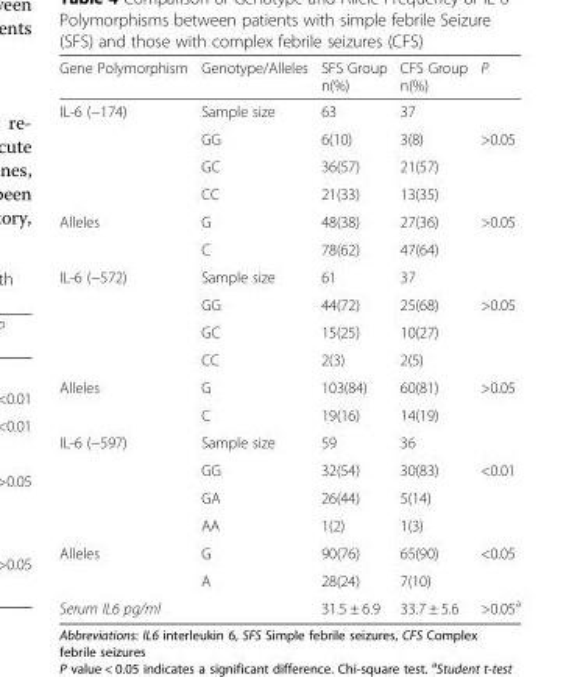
<table><thead><tr><td>Gene Polymorphism</td><td>Genotype/Alleles</td><td>SFS Group n(%)</td><td>CFS Group n(%)</td><td>P</td></tr></thead><tbody><tr><td rowspan="4">IL-6 (−174)</td><td>Sample size</td><td>63</td><td>37</td><td></td></tr><tr><td>GG</td><td>6(10)</td><td>3(8)</td><td>&gt;0.05</td></tr><tr><td>GC</td><td>36(57)</td><td>21(57)</td><td></td></tr><tr><td>CC</td><td>21(33)</td><td>13(35)</td><td></td></tr><tr><td rowspan="2">Alleles</td><td>G</td><td>48(38)</td><td>27(36)</td><td>&gt;0.05</td></tr><tr><td>C</td><td>78(62)</td><td>47(64)</td><td></td></tr><tr><td rowspan="4">IL-6 (−572)</td><td>Sample size</td><td>61</td><td>37</td><td></td></tr><tr><td>GG</td><td>44(72)</td><td>25(68)</td><td>&gt;0.05</td></tr><tr><td>GC</td><td>15(25)</td><td>10(27)</td><td></td></tr><tr><td>CC</td><td>2(3)</td><td>2(5)</td><td></td></tr><tr><td rowspan="2">Alleles</td><td>G</td><td>103(84)</td><td>60(81)</td><td>&gt;0.05</td></tr><tr><td>C</td><td>19(16)</td><td>14(19)</td><td></td></tr><tr><td rowspan="4">IL-6 (−597)</td><td>Sample size</td><td>59</td><td>36</td><td></td></tr><tr><td>GG</td><td>32(54)</td><td>30(83)</td><td>&lt;0.01</td></tr><tr><td>GA</td><td>26(44)</td><td>5(14)</td><td></td></tr><tr><td>AA</td><td>1(2)</td><td>1(3)</td><td></td></tr><tr><td rowspan="2">Alleles</td><td>G</td><td>90(76)</td><td>65(90)</td><td>&lt;0.05</td></tr><tr><td>A</td><td>28(24)</td><td>7(10)</td><td></td></tr><tr><td>Serum IL6 pg/ml</td><td></td><td>31.5 ± 6.9</td><td>33.7 ± 5.6</td><td>&gt;0.05<sup>a</sup></td></tr></tbody></table>